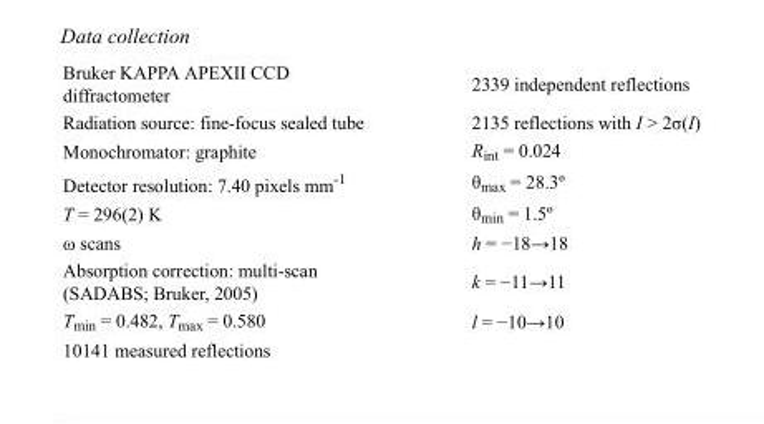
<table><tbody><tr><td>Bruker KAPPA APEXII CCD diffractometer</td><td>2339 independent reflections</td></tr><tr><td>Radiation source: fine-focus sealed tube</td><td>2135 reflections with I &gt; 2σ(I)</td></tr><tr><td>Monochromator: graphite</td><td>R<sub>int</sub> = 0.024</td></tr><tr><td>Detector resolution: 7.40 pixels mm<sup>-1</sup></td><td>θ<sub>max</sub> = 28.3º</td></tr><tr><td>T = 296(2) K</td><td>θ<sub>min</sub> = 1.5º</td></tr><tr><td>ω scans</td><td>h = −18→18</td></tr><tr><td>Absorption correction: multi-scan (SADABS; Bruker, 2005)</td><td>k = −11→11</td></tr><tr><td>T<sub>min</sub> = 0.482, T<sub>max</sub> = 0.580</td><td>l = −10→10</td></tr><tr><td>10141 measured reflections</td><td></td></tr></tbody></table>